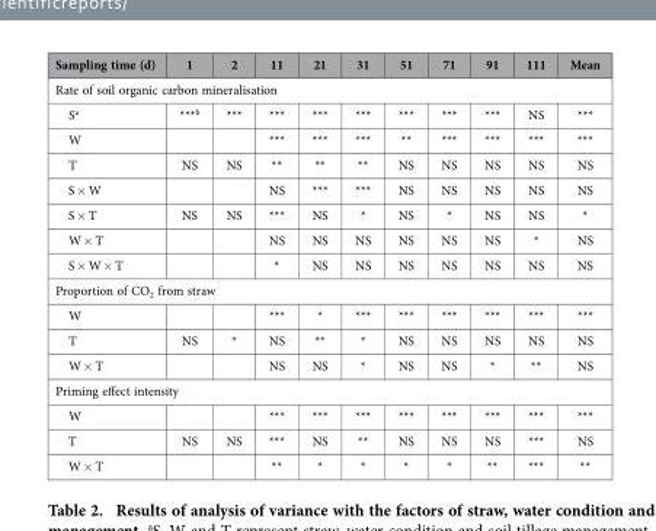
<table><thead><tr><td>Sampling time (d)</td><td>1</td><td>2</td><td>11</td><td>21</td><td>31</td><td>51</td><td>71</td><td>91</td><td>111</td><td>Mean</td></tr></thead><tbody><tr><td colspan="11">Rate of soil organic carbon mineralisation</td></tr><tr><td>S<sup>a</sup></td><td>***<sup>b</sup></td><td>***</td><td>***</td><td>***</td><td>***</td><td>***</td><td>***</td><td>***</td><td>NS</td><td>***</td></tr><tr><td>W</td><td></td><td></td><td>***</td><td>***</td><td>***</td><td>**</td><td>***</td><td>***</td><td>***</td><td>***</td></tr><tr><td>T</td><td>NS</td><td>NS</td><td>**</td><td>**</td><td>**</td><td>NS</td><td>NS</td><td>NS</td><td>NS</td><td>NS</td></tr><tr><td>S × W</td><td></td><td></td><td>NS</td><td>***</td><td>***</td><td>NS</td><td>NS</td><td>NS</td><td>NS</td><td>NS</td></tr><tr><td>S × T</td><td>NS</td><td>NS</td><td>***</td><td>NS</td><td>*</td><td>NS</td><td>*</td><td>NS</td><td>NS</td><td>*</td></tr><tr><td>W × T</td><td></td><td></td><td>NS</td><td>NS</td><td>NS</td><td>NS</td><td>NS</td><td>NS</td><td>*</td><td>NS</td></tr><tr><td>S × W × T</td><td></td><td></td><td>*</td><td>NS</td><td>NS</td><td>NS</td><td>NS</td><td>NS</td><td>NS</td><td>NS</td></tr><tr><td colspan="11">Proportion of CO<sub>2</sub> from straw</td></tr><tr><td>W</td><td></td><td></td><td>***</td><td>*</td><td>***</td><td>***</td><td>***</td><td>***</td><td>***</td><td>***</td></tr><tr><td>T</td><td>NS</td><td>*</td><td>NS</td><td>**</td><td>*</td><td>NS</td><td>NS</td><td>NS</td><td>NS</td><td>NS</td></tr><tr><td>W × T</td><td></td><td></td><td>NS</td><td>NS</td><td>*</td><td>NS</td><td>NS</td><td>*</td><td>**</td><td>NS</td></tr><tr><td colspan="11">Priming effect intensity</td></tr><tr><td>W</td><td></td><td></td><td>***</td><td>***</td><td>***</td><td>***</td><td>***</td><td>***</td><td>***</td><td>***</td></tr><tr><td>T</td><td>NS</td><td>NS</td><td>***</td><td>NS</td><td>**</td><td>NS</td><td>NS</td><td>NS</td><td>***</td><td>NS</td></tr><tr><td>W × T</td><td></td><td></td><td>**</td><td>*</td><td>*</td><td>*</td><td>*</td><td>**</td><td>***</td><td>**</td></tr></tbody></table>